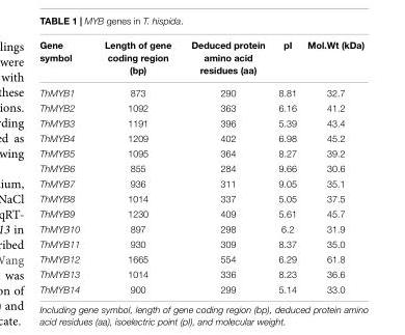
<table><thead><tr><td>Gene symbol</td><td>Length of gene coding region (bp)</td><td>Deduced protein amino acid residues (aa)</td><td>pI</td><td>Mol.Wt (kDa)</td></tr></thead><tbody><tr><td>ThMYB1</td><td>873</td><td>290</td><td>8.81</td><td>32.7</td></tr><tr><td>ThMYB2</td><td>1092</td><td>363</td><td>6.16</td><td>41.2</td></tr><tr><td>ThMYB3</td><td>1191</td><td>396</td><td>5.39</td><td>43.4</td></tr><tr><td>ThMYB4</td><td>1209</td><td>402</td><td>6.98</td><td>45.2</td></tr><tr><td>ThMYB5</td><td>1095</td><td>364</td><td>8.27</td><td>39.2</td></tr><tr><td>ThMYB6</td><td>855</td><td>284</td><td>9.66</td><td>30.6</td></tr><tr><td>ThMYB7</td><td>936</td><td>311</td><td>9.05</td><td>35.1</td></tr><tr><td>ThMYB8</td><td>1014</td><td>337</td><td>5.05</td><td>37.5</td></tr><tr><td>ThMYB9</td><td>1230</td><td>409</td><td>5.61</td><td>45.7</td></tr><tr><td>ThMYB10</td><td>897</td><td>298</td><td>6.2</td><td>31.9</td></tr><tr><td>ThMYB11</td><td>930</td><td>309</td><td>8.37</td><td>35.0</td></tr><tr><td>ThMYB12</td><td>1665</td><td>554</td><td>6.29</td><td>61.8</td></tr><tr><td>ThMYB13</td><td>1014</td><td>336</td><td>8.23</td><td>36.6</td></tr><tr><td>ThMYB14</td><td>900</td><td>299</td><td>5.14</td><td>33.0</td></tr></tbody></table>